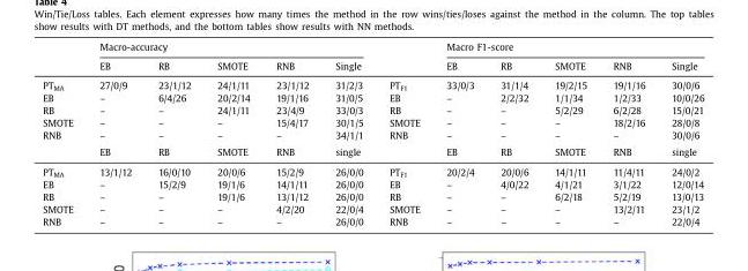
<table><thead><tr><td rowspan="2"></td><td colspan="5">Macro-accuracy</td><td rowspan="2"></td><td colspan="5">Macro F1-score</td></tr><tr><td>EB</td><td>RB</td><td>SMOTE</td><td>RNB</td><td>Single</td><td>EB</td><td>RB</td><td>SMOTE</td><td>RNB</td><td>Single</td></tr></thead><tbody><tr><td>PT <sub>MA</sub></td><td>27/0/9</td><td>23/1/12</td><td>24/1/11</td><td>23/1/12</td><td>31/2/3</td><td>PT <sub>F1</sub></td><td>33/0/3</td><td>31/1/4</td><td>19/2/15</td><td>19/1/16</td><td>30/0/6</td></tr><tr><td>EB</td><td>–</td><td>6/4/26</td><td>20/2/14</td><td>19/1/16</td><td>31/0/5</td><td>EB</td><td>–</td><td>2/2/32</td><td>1/1/34</td><td>1/2/33</td><td>10/0/26</td></tr><tr><td>RB</td><td>–</td><td>–</td><td>24/1/11</td><td>23/4/9</td><td>33/0/3</td><td>RB</td><td>–</td><td>–</td><td>5/2/29</td><td>6/2/28</td><td>15/0/21</td></tr><tr><td>SMOTE</td><td>–</td><td>–</td><td>–</td><td>15/4/17</td><td>30/1/5</td><td>SMOTE</td><td>–</td><td>–</td><td>–</td><td>18/2/16</td><td>28/0/8</td></tr><tr><td rowspan="2">RNB</td><td>–</td><td>–</td><td>–</td><td>–</td><td>34/1/1</td><td>RNB</td><td>–</td><td>–</td><td>–</td><td>–</td><td>30/0/6</td></tr><tr><td>EB</td><td>RB</td><td>SMOTE</td><td>RNB</td><td>single</td><td></td><td>EB</td><td>RB</td><td>SMOTE</td><td>RNB</td><td>single</td></tr><tr><td>PT <sub>MA</sub></td><td>13/1/12</td><td>16/0/10</td><td>20/0/6</td><td>15/2/9</td><td>26/0/0</td><td>PT <sub>F1</sub></td><td>20/2/4</td><td>20/0/6</td><td>14/1/11</td><td>11/4/11</td><td>24/0/2</td></tr><tr><td>EB</td><td>–</td><td>15/2/9</td><td>19/1/6</td><td>14/1/11</td><td>26/0/0</td><td>EB</td><td>–</td><td>4/0/22</td><td>4/1/21</td><td>3/1/22</td><td>12/0/14</td></tr><tr><td>RB</td><td>–</td><td>–</td><td>19/1/6</td><td>13/1/12</td><td>26/0/0</td><td>RB</td><td>–</td><td>–</td><td>6/2/18</td><td>5/2/19</td><td>13/0/13</td></tr><tr><td>SMOTE</td><td>–</td><td>–</td><td>–</td><td>4/2/20</td><td>22/0/4</td><td>SMOTE</td><td>–</td><td>–</td><td>–</td><td>13/2/11</td><td>23/1/2</td></tr><tr><td>RNB</td><td>–</td><td>–</td><td>–</td><td>–</td><td>26/0/0</td><td>RNB</td><td>–</td><td>–</td><td>–</td><td>–</td><td>22/0/4</td></tr></tbody></table>